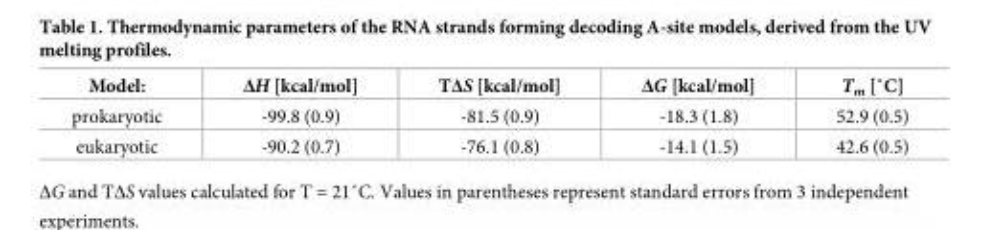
<table><thead><tr><td>Model:</td><td>ΔH [kcal/mol]</td><td>TΔS [kcal/mol]</td><td>ΔG [kcal/mol]</td><td>Tm [˚C]</td></tr></thead><tbody><tr><td>prokaryotic</td><td>-99.8 (0.9)</td><td>-81.5 (0.9)</td><td>-18.3 (1.8)</td><td>52.9 (0.5)</td></tr><tr><td>eukaryotic</td><td>-90.2 (0.7)</td><td>-76.1 (0.8)</td><td>-14.1 (1.5)</td><td>42.6 (0.5)</td></tr></tbody></table>